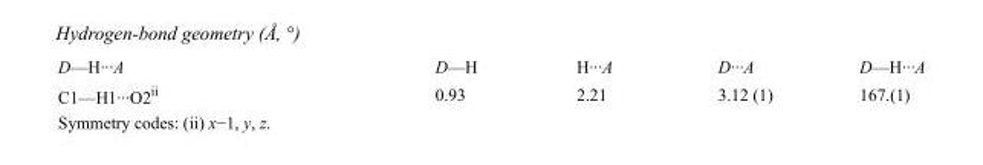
<table><tbody><tr><td>D—H···A</td><td>D—H</td><td>H···A</td><td>D···A</td><td>D—H···A</td></tr><tr><td>C1—H1···O2<sup>ii</sup></td><td>0.93</td><td>2.21</td><td>3.12 (1)</td><td>167.(1)</td></tr></tbody></table>